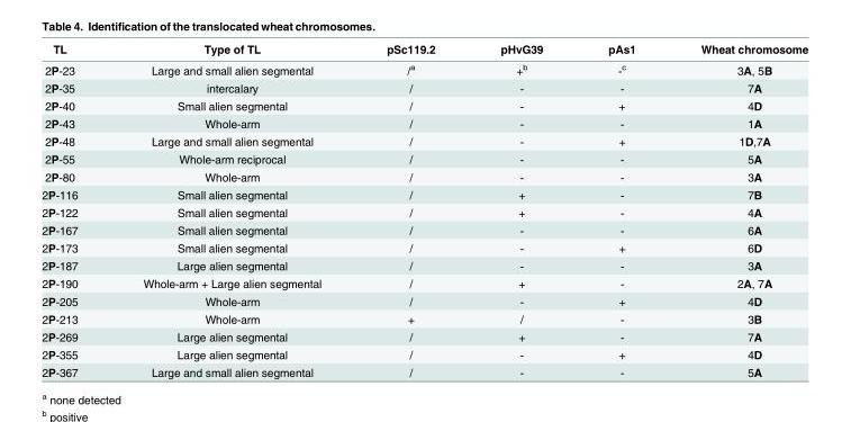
<table><thead><tr><td>TL</td><td>Type of TL</td><td>pSc119.2</td><td>pHvG39</td><td>pAs1</td><td>Wheat chromosome</td></tr></thead><tbody><tr><td>2P-23</td><td>Large and small alien segmental</td><td>/<sup>a</sup></td><td>+<sup>b</sup></td><td>-<sup>c</sup></td><td>3A, 5B</td></tr><tr><td>2P-35</td><td>intercalary</td><td>/</td><td>-</td><td>-</td><td>7A</td></tr><tr><td>2P-40</td><td>Small alien segmental</td><td>/</td><td>-</td><td>+</td><td>4D</td></tr><tr><td>2P-43</td><td>Whole-arm</td><td>/</td><td>-</td><td>-</td><td>1A</td></tr><tr><td>2P-48</td><td>Large and small alien segmental</td><td>/</td><td>-</td><td>+</td><td>1D,7A</td></tr><tr><td>2P-55</td><td>Whole-arm reciprocal</td><td>/</td><td>-</td><td>-</td><td>5A</td></tr><tr><td>2P-80</td><td>Whole-arm</td><td>/</td><td>-</td><td>-</td><td>3A</td></tr><tr><td>2P-116</td><td>Small alien segmental</td><td>/</td><td>+</td><td>-</td><td>7B</td></tr><tr><td>2P-122</td><td>Small alien segmental</td><td>/</td><td>+</td><td>-</td><td>4A</td></tr><tr><td>2P-167</td><td>Small alien segmental</td><td>/</td><td>-</td><td>-</td><td>6A</td></tr><tr><td>2P-173</td><td>Small alien segmental</td><td>/</td><td>-</td><td>+</td><td>6D</td></tr><tr><td>2P-187</td><td>Large alien segmental</td><td>/</td><td>-</td><td>-</td><td>3A</td></tr><tr><td>2P-190</td><td>Whole-arm + Large alien segmental</td><td>/</td><td>+</td><td>-</td><td>2A, 7A</td></tr><tr><td>2P-205</td><td>Whole-arm</td><td>/</td><td>-</td><td>+</td><td>4D</td></tr><tr><td>2P-213</td><td>Whole-arm</td><td>+</td><td>/</td><td>-</td><td>3B</td></tr><tr><td>2P-269</td><td>Large alien segmental</td><td>/</td><td>+</td><td>-</td><td>7A</td></tr><tr><td>2P-355</td><td>Large alien segmental</td><td>/</td><td>-</td><td>+</td><td>4D</td></tr><tr><td>2P-367</td><td>Large and small alien segmental</td><td>/</td><td>-</td><td>-</td><td>5A</td></tr></tbody></table>